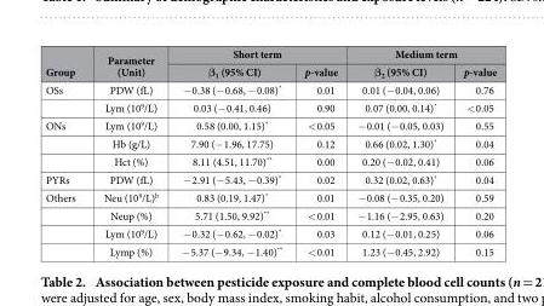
<table><thead><tr><td rowspan="2">Group</td><td rowspan="2">Parameter (Unit)</td><td colspan="2">Short term</td><td colspan="2">Medium term</td></tr><tr><td>β<sub>1</sub> (95% CI)</td><td>p-value</td><td>β<sub>2</sub> (95% CI)</td><td>p-value</td></tr></thead><tbody><tr><td rowspan="2">OSs</td><td>PDW (fL)</td><td>− 0.38 (− 0.68, − 0.08)*</td><td>0.01</td><td>0.01 (− 0.04, 0.06)</td><td>0.76</td></tr><tr><td>Lym (10<sup>9</sup>/L)</td><td>0.03 (− 0.41, 0.46)</td><td>0.90</td><td>0.07 (0.00, 0.14)*</td><td>&lt; 0.05</td></tr><tr><td rowspan="3">ONs</td><td>Lym (10<sup>9</sup>/L)</td><td>0.58 (0.00, 1.15)*</td><td>&lt; 0.05</td><td>− 0.01 (− 0.05, 0.03)</td><td>0.55</td></tr><tr><td>Hb (g/L)</td><td>7.90 (− 1.96, 17.75)</td><td>0.12</td><td>0.66 (0.02, 1.30)*</td><td>0.04</td></tr><tr><td>Hct (%)</td><td>8.11 (4.51, 11.70)**</td><td>0.00</td><td>0.20 (− 0.02, 0.41)</td><td>0.06</td></tr><tr><td>PYRs</td><td>PDW (fL)</td><td>− 2.91 (− 5.43, − 0.39)*</td><td>0.02</td><td>0.32 (0.02, 0.63)*</td><td>0.04</td></tr><tr><td rowspan="4">Others</td><td>Neu (10<sup>9</sup>/L)<sup>b</sup></td><td>0.83 (0.19, 1.47)*</td><td>0.01</td><td>− 0.08 (− 0.35, 0.20)</td><td>0.59</td></tr><tr><td>Neup (%)</td><td>5.71 (1.50, 9.92)**</td><td>&lt; 0.01</td><td>− 1.16 (− 2.95, 0.63)</td><td>0.20</td></tr><tr><td>Lym (10<sup>9</sup>/L)</td><td>− 0.32 (− 0.62, − 0.02)*</td><td>0.03</td><td>0.12 (− 0.01, 0.25)</td><td>0.06</td></tr><tr><td>Lymp (%)</td><td>− 5.37 (− 9.34, − 1.40)**</td><td>&lt; 0.01</td><td>1.23 (− 0.45, 2.92)</td><td>0.15</td></tr></tbody></table>